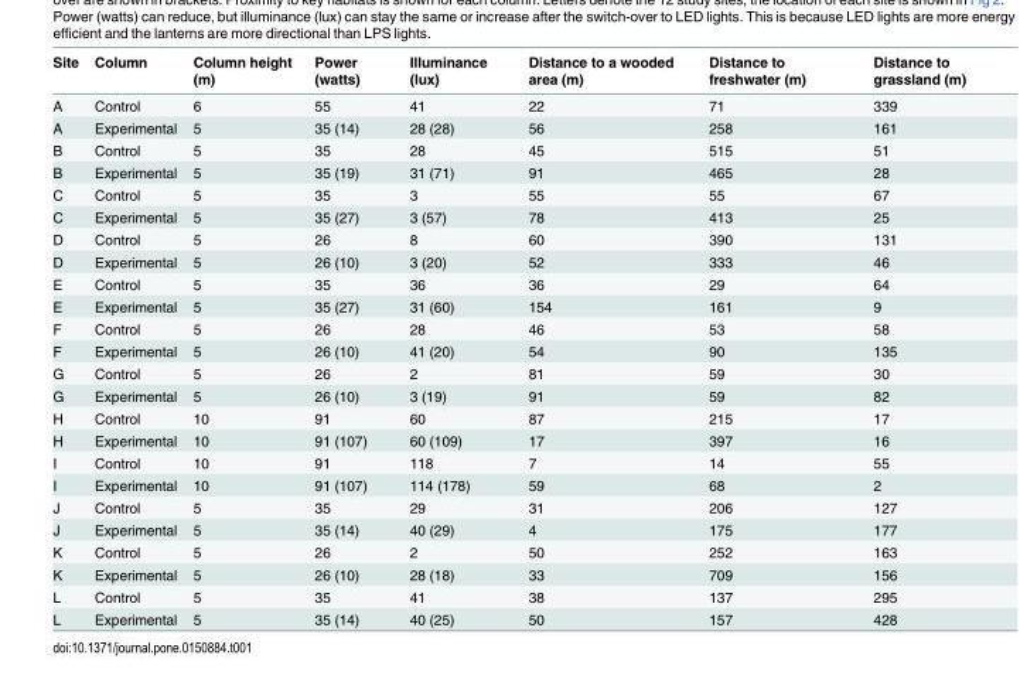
<table><thead><tr><td>Site</td><td>Column</td><td>Column height (m)</td><td>Power (watts)</td><td>Illuminance (lux)</td><td>Distance to a wooded area (m)</td><td>Distance to freshwater (m)</td><td>Distance to grassland (m)</td></tr></thead><tbody><tr><td>A</td><td>Control</td><td>6</td><td>55</td><td>41</td><td>22</td><td>71</td><td>339</td></tr><tr><td>A</td><td>Experimental</td><td>5</td><td>35 (14)</td><td>28 (28)</td><td>56</td><td>258</td><td>161</td></tr><tr><td>B</td><td>Control</td><td>5</td><td>35</td><td>28</td><td>45</td><td>515</td><td>51</td></tr><tr><td>B</td><td>Experimental</td><td>5</td><td>35 (19)</td><td>31 (71)</td><td>91</td><td>465</td><td>28</td></tr><tr><td>C</td><td>Control</td><td>5</td><td>35</td><td>3</td><td>55</td><td>55</td><td>67</td></tr><tr><td>C</td><td>Experimental</td><td>5</td><td>35 (27)</td><td>3 (57)</td><td>78</td><td>413</td><td>25</td></tr><tr><td>D</td><td>Control</td><td>5</td><td>26</td><td>8</td><td>60</td><td>390</td><td>131</td></tr><tr><td>D</td><td>Experimental</td><td>5</td><td>26 (10)</td><td>3 (20)</td><td>52</td><td>333</td><td>46</td></tr><tr><td>E</td><td>Control</td><td>5</td><td>35</td><td>36</td><td>36</td><td>29</td><td>64</td></tr><tr><td>E</td><td>Experimental</td><td>5</td><td>35 (27)</td><td>31 (60)</td><td>154</td><td>161</td><td>9</td></tr><tr><td>F</td><td>Control</td><td>5</td><td>26</td><td>28</td><td>46</td><td>53</td><td>58</td></tr><tr><td>F</td><td>Experimental</td><td>5</td><td>26 (10)</td><td>41 (20)</td><td>54</td><td>90</td><td>135</td></tr><tr><td>G</td><td>Control</td><td>5</td><td>26</td><td>2</td><td>81</td><td>59</td><td>30</td></tr><tr><td>G</td><td>Experimental</td><td>5</td><td>26 (10)</td><td>3 (19)</td><td>91</td><td>59</td><td>82</td></tr><tr><td>H</td><td>Control</td><td>10</td><td>91</td><td>60</td><td>87</td><td>215</td><td>17</td></tr><tr><td>H</td><td>Experimental</td><td>10</td><td>91 (107)</td><td>60 (109)</td><td>17</td><td>397</td><td>16</td></tr><tr><td>I</td><td>Control</td><td>10</td><td>91</td><td>118</td><td>7</td><td>14</td><td>55</td></tr><tr><td>I</td><td>Experimental</td><td>10</td><td>91 (107)</td><td>114 (178)</td><td>59</td><td>68</td><td>2</td></tr><tr><td>J</td><td>Control</td><td>5</td><td>35</td><td>29</td><td>31</td><td>206</td><td>127</td></tr><tr><td>J</td><td>Experimental</td><td>5</td><td>35 (14)</td><td>40 (29)</td><td>4</td><td>175</td><td>177</td></tr><tr><td>K</td><td>Control</td><td>5</td><td>26</td><td>2</td><td>50</td><td>252</td><td>163</td></tr><tr><td>K</td><td>Experimental</td><td>5</td><td>26 (10)</td><td>28 (18)</td><td>33</td><td>709</td><td>156</td></tr><tr><td>L</td><td>Control</td><td>5</td><td>35</td><td>41</td><td>38</td><td>137</td><td>295</td></tr><tr><td>L</td><td>Experimental</td><td>5</td><td>35 (14)</td><td>40 (25)</td><td>50</td><td>157</td><td>428</td></tr></tbody></table>